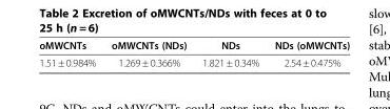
<table><thead><tr><td>oMWCNTs</td><td>oMWCNTs (NDs)</td><td>NDs</td><td>NDs (oMWCNTs)</td></tr></thead><tbody><tr><td>1.51 ± 0.984%</td><td>1.269 ± 0.366%</td><td>1.821 ± 0.34%</td><td>2.54 ± 0.475%</td></tr></tbody></table>